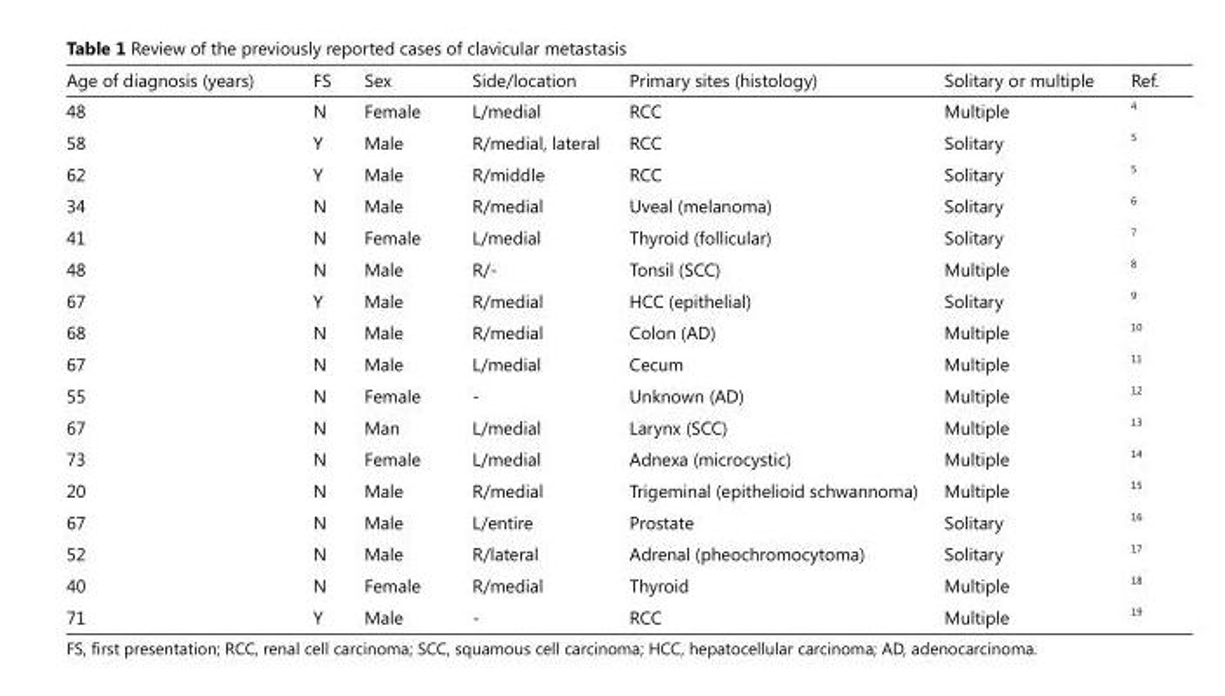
<table><thead><tr><td>Age of diagnosis (years)</td><td>FS</td><td>Sex</td><td>Side/location</td><td>Primary sites (histology)</td><td>Solitary or multiple</td><td>Ref.</td></tr></thead><tbody><tr><td>48</td><td>N</td><td>Female</td><td>L/medial</td><td>RCC</td><td>Multiple</td><td><sup>4</sup></td></tr><tr><td>58</td><td>Y</td><td>Male</td><td>R/medial, lateral</td><td>RCC</td><td>Solitary</td><td><sup>5</sup></td></tr><tr><td>62</td><td>Y</td><td>Male</td><td>R/middle</td><td>RCC</td><td>Solitary</td><td><sup>5</sup></td></tr><tr><td>34</td><td>N</td><td>Male</td><td>R/medial</td><td>Uveal (melanoma)</td><td>Solitary</td><td><sup>6</sup></td></tr><tr><td>41</td><td>N</td><td>Female</td><td>L/medial</td><td>Thyroid (follicular)</td><td>Solitary</td><td><sup>7</sup></td></tr><tr><td>48</td><td>N</td><td>Male</td><td>R/-</td><td>Tonsil (SCC)</td><td>Multiple</td><td><sup>8</sup></td></tr><tr><td>67</td><td>Y</td><td>Male</td><td>R/medial</td><td>HCC (epithelial)</td><td>Solitary</td><td><sup>9</sup></td></tr><tr><td>68</td><td>N</td><td>Male</td><td>R/medial</td><td>Colon (AD)</td><td>Multiple</td><td><sup>10</sup></td></tr><tr><td>67</td><td>N</td><td>Male</td><td>L/medial</td><td>Cecum</td><td>Multiple</td><td><sup>11</sup></td></tr><tr><td>55</td><td>N</td><td>Female</td><td>-</td><td>Unknown (AD)</td><td>Multiple</td><td><sup>12</sup></td></tr><tr><td>67</td><td>N</td><td>Man</td><td>L/medial</td><td>Larynx (SCC)</td><td>Multiple</td><td><sup>13</sup></td></tr><tr><td>73</td><td>N</td><td>Female</td><td>L/medial</td><td>Adnexa (microcystic)</td><td>Multiple</td><td><sup>14</sup></td></tr><tr><td>20</td><td>N</td><td>Male</td><td>R/medial</td><td>Trigeminal (epithelioid schwannoma)</td><td>Multiple</td><td><sup>15</sup></td></tr><tr><td>67</td><td>N</td><td>Male</td><td>L/entire</td><td>Prostate</td><td>Solitary</td><td><sup>16</sup></td></tr><tr><td>52</td><td>N</td><td>Male</td><td>R/lateral</td><td>Adrenal (pheochromocytoma)</td><td>Solitary</td><td><sup>17</sup></td></tr><tr><td>40</td><td>N</td><td>Female</td><td>R/medial</td><td>Thyroid</td><td>Multiple</td><td><sup>18</sup></td></tr><tr><td>71</td><td>Y</td><td>Male</td><td>-</td><td>RCC</td><td>Multiple</td><td><sup>19</sup></td></tr></tbody></table>